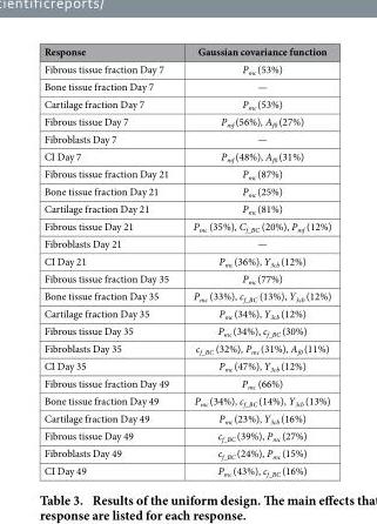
<table><thead><tr><td>Response</td><td>Gaussian covariance function</td></tr></thead><tbody><tr><td>Fibrous tissue fraction Day 7</td><td>P<sub>mc</sub> (53%)</td></tr><tr><td>Bone tissue fraction Day 7</td><td>—</td></tr><tr><td>Cartilage fraction Day 7</td><td>P<sub>mc</sub> (53%)</td></tr><tr><td>Fibrous tissue Day 7</td><td>P<sub>mf</sub> (56%), A<sub>f0</sub> (27%)</td></tr><tr><td>Fibroblasts Day 7</td><td>—</td></tr><tr><td>CI Day 7</td><td>P<sub>mf</sub> (48%), A<sub>f0</sub> (31%)</td></tr><tr><td>Fibrous tissue fraction Day 21</td><td>P<sub>mc</sub> (87%)</td></tr><tr><td>Bone tissue fraction Day 21</td><td>P<sub>mc</sub> (25%)</td></tr><tr><td>Cartilage fraction Day 21</td><td>P<sub>mc</sub> (81%)</td></tr><tr><td>Fibrous tissue Day 21</td><td>P<sub>mc</sub> (35%), C<sub>f_BC</sub> (20%), P<sub>mf</sub> (12%)</td></tr><tr><td>Fibroblasts Day 21</td><td>—</td></tr><tr><td>CI Day 21</td><td>P<sub>mc</sub> (36%), Y<sub>3cb</sub> (12%)</td></tr><tr><td>Fibrous tissue fraction Day 35</td><td>P<sub>mc</sub> (77%)</td></tr><tr><td>Bone tissue fraction Day 35</td><td>P<sub>mc</sub> (33%), c<sub>f_BC</sub> (13%), Y<sub>3cb</sub> (12%)</td></tr><tr><td>Cartilage fraction Day 35</td><td>P<sub>mc</sub> (34%), Y<sub>3cb</sub> (12%)</td></tr><tr><td>Fibrous tissue Day 35</td><td>P<sub>mc</sub> (34%), c<sub>f_BC</sub> (30%)</td></tr><tr><td>Fibroblasts Day 35</td><td>c<sub>f_BC</sub> (32%), P<sub>mc</sub> (31%), A<sub>f0</sub> (11%)</td></tr><tr><td>CI Day 35</td><td>P<sub>mc</sub> (47%), Y<sub>3cb</sub> (12%)</td></tr><tr><td>Fibrous tissue fraction Day 49</td><td>P<sub>mc</sub> (66%)</td></tr><tr><td>Bone tissue fraction Day 49</td><td>P<sub>mc</sub> (34%), c<sub>f_BC</sub> (14%), Y<sub>3cb</sub> (13%)</td></tr><tr><td>Cartilage fraction Day 49</td><td>P<sub>mc</sub> (23%), Y<sub>3cb</sub> (16%)</td></tr><tr><td>Fibrous tissue Day 49</td><td>c<sub>f_BC</sub> (39%), P<sub>mc</sub> (27%)</td></tr><tr><td>Fibroblasts Day 49</td><td>c<sub>f_BC</sub> (24%), P<sub>mc</sub> (15%)</td></tr><tr><td>CI Day 49</td><td>P<sub>mc</sub> (43%), c<sub>f_BC</sub> (16%)</td></tr></tbody></table>